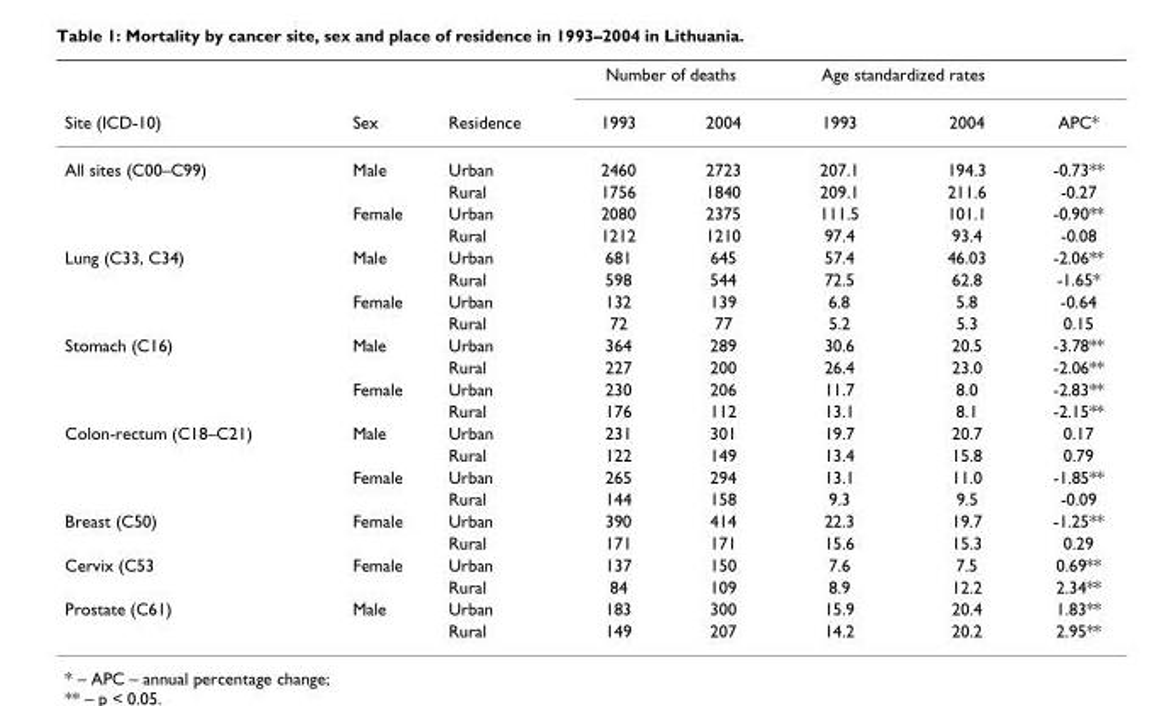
<table><thead><tr><td rowspan="2">Site (ICD-10)</td><td rowspan="2">Sex</td><td rowspan="2">Residence</td><td colspan="2">Number of deaths</td><td colspan="2">Age standardized rates</td><td rowspan="2">APC*</td></tr><tr><td>1993</td><td>2004</td><td>1993</td><td>2004</td></tr></thead><tbody><tr><td rowspan="4">All sites (C00–C99)</td><td>Male</td><td>Urban</td><td>2460</td><td>2723</td><td>207.1</td><td>194.3</td><td>-0.73**</td></tr><tr><td></td><td>Rural</td><td>1756</td><td>1840</td><td>209.1</td><td>211.6</td><td>-0.27</td></tr><tr><td>Female</td><td>Urban</td><td>2080</td><td>2375</td><td>111.5</td><td>101.1</td><td>-0.90**</td></tr><tr><td></td><td>Rural</td><td>1212</td><td>1210</td><td>97.4</td><td>93.4</td><td>-0.08</td></tr><tr><td rowspan="4">Lung (C33, C34)</td><td>Male</td><td>Urban</td><td>681</td><td>645</td><td>57.4</td><td>46.03</td><td>-2.06**</td></tr><tr><td></td><td>Rural</td><td>598</td><td>544</td><td>72.5</td><td>62.8</td><td>-1.65*</td></tr><tr><td>Female</td><td>Urban</td><td>132</td><td>139</td><td>6.8</td><td>5.8</td><td>-0.64</td></tr><tr><td></td><td>Rural</td><td>72</td><td>77</td><td>5.2</td><td>5.3</td><td>0.15</td></tr><tr><td rowspan="4">Stomach (C16)</td><td>Male</td><td>Urban</td><td>364</td><td>289</td><td>30.6</td><td>20.5</td><td>-3.78**</td></tr><tr><td></td><td>Rural</td><td>227</td><td>200</td><td>26.4</td><td>23.0</td><td>-2.06**</td></tr><tr><td>Female</td><td>Urban</td><td>230</td><td>206</td><td>11.7</td><td>8.0</td><td>-2.83**</td></tr><tr><td></td><td>Rural</td><td>176</td><td>112</td><td>13.1</td><td>8.1</td><td>-2.15**</td></tr><tr><td rowspan="4">Colon-rectum (C18–C21)</td><td>Male</td><td>Urban</td><td>231</td><td>301</td><td>19.7</td><td>20.7</td><td>0.17</td></tr><tr><td></td><td>Rural</td><td>122</td><td>149</td><td>13.4</td><td>15.8</td><td>0.79</td></tr><tr><td>Female</td><td>Urban</td><td>265</td><td>294</td><td>13.1</td><td>11.0</td><td>-1.85**</td></tr><tr><td></td><td>Rural</td><td>144</td><td>158</td><td>9.3</td><td>9.5</td><td>-0.09</td></tr><tr><td rowspan="2">Breast (C50)</td><td>Female</td><td>Urban</td><td>390</td><td>414</td><td>22.3</td><td>19.7</td><td>-1.25**</td></tr><tr><td></td><td>Rural</td><td>171</td><td>171</td><td>15.6</td><td>15.3</td><td>0.29</td></tr><tr><td rowspan="2">Cervix (C53</td><td>Female</td><td>Urban</td><td>137</td><td>150</td><td>7.6</td><td>7.5</td><td>0.69**</td></tr><tr><td></td><td>Rural</td><td>84</td><td>109</td><td>8.9</td><td>12.2</td><td>2.34**</td></tr><tr><td rowspan="2">Prostate (C61)</td><td>Male</td><td>Urban</td><td>183</td><td>300</td><td>15.9</td><td>20.4</td><td>1.83**</td></tr><tr><td></td><td>Rural</td><td>149</td><td>207</td><td>14.2</td><td>20.2</td><td>2.95**</td></tr></tbody></table>